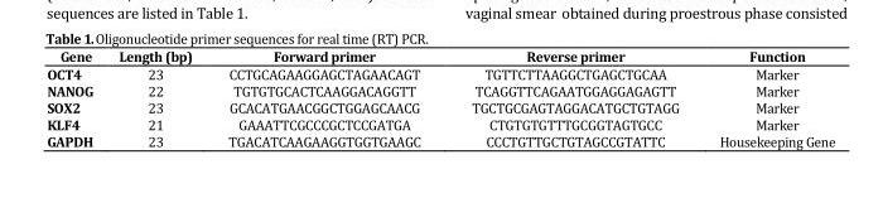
<table><thead><tr><td>Gene</td><td>Length (bp)</td><td>Forward primer</td><td>Reverse primer</td><td>Function</td></tr></thead><tbody><tr><td>OCT4</td><td>23</td><td>CCTGCAGAAGGAGCTAGAACAGT</td><td>TGTTCTTAAGGCTGAGCTGCAA</td><td>Marker</td></tr><tr><td>NANOG</td><td>22</td><td>TGTGTGCACTCAAGGACAGGTT</td><td>TCAGGTTCAGAATGGAGGAGAGTT</td><td>Marker</td></tr><tr><td>SOX2</td><td>23</td><td>GCACATGAACGGCTGGAGCAACG</td><td>TGCTGCGAGTAGGACATGCTGTAGG</td><td>Marker</td></tr><tr><td>KLF4</td><td>21</td><td>GAAATTCGCCCGCTCCGATGA</td><td>CTGTGTGTTTGCGGTAGTGCC</td><td>Marker</td></tr><tr><td>GAPDH</td><td>23</td><td>TGACATCAAGAAGGTGGTGAAGC</td><td>CCCTGTTGCTGTAGCCGTATTC</td><td>Housekeeping Gene</td></tr></tbody></table>